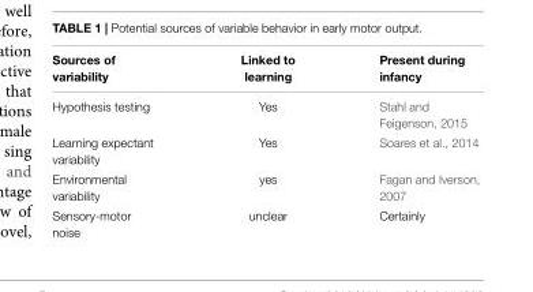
<table><thead><tr><td>Sources of variability</td><td>Linked to learning</td><td>Present during infancy</td></tr></thead><tbody><tr><td>Hypothesis testing</td><td>Yes</td><td>Stahl and Feigenson, 2015</td></tr><tr><td>Learning expectant variability</td><td>Yes</td><td>Soares et al., 2014</td></tr><tr><td>Environmental variability</td><td>yes</td><td>Fagan and Iverson, 2007</td></tr><tr><td>Sensory-motor noise</td><td>unclear</td><td>Certainly</td></tr></tbody></table>